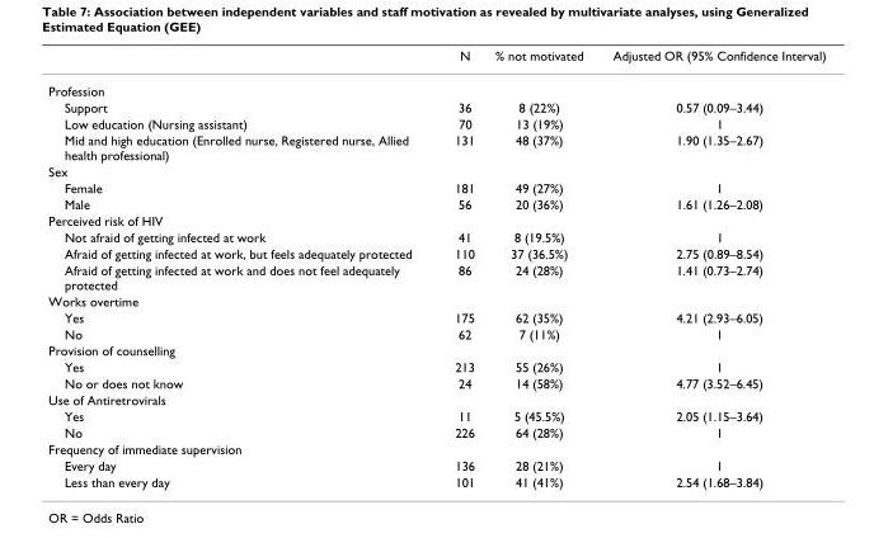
<table><thead><tr><td></td><td>N</td><td>% not motivated</td><td>Adjusted OR (95% Confidence Interval)</td></tr></thead><tbody><tr><td colspan="4">Profession</td></tr><tr><td>Support</td><td>36</td><td>8 (22%)</td><td>0.57 (0.09–3.44)</td></tr><tr><td>Low education (Nursing assistant)</td><td>70</td><td>13 (19%)</td><td>1</td></tr><tr><td>Mid and high education (Enrolled nurse, Registered nurse, Allied health professional)</td><td>131</td><td>48 (37%)</td><td>1.90 (1.35–2.67)</td></tr><tr><td colspan="4">Sex</td></tr><tr><td>Female</td><td>181</td><td>49 (27%)</td><td>1</td></tr><tr><td>Male</td><td>56</td><td>20 (36%)</td><td>1.61 (1.26–2.08)</td></tr><tr><td colspan="4">Perceived risk of HIV</td></tr><tr><td>Not afraid of getting infected at work</td><td>41</td><td>8 (19.5%)</td><td>1</td></tr><tr><td>Afraid of getting infected at work, but feels adequately protected</td><td>110</td><td>37 (36.5%)</td><td>2.75 (0.89–8.54)</td></tr><tr><td>Afraid of getting infected at work and does not feel adequately protected</td><td>86</td><td>24 (28%)</td><td>1.41 (0.73–2.74)</td></tr><tr><td colspan="4">Works overtime</td></tr><tr><td>Yes</td><td>175</td><td>62 (35%)</td><td>4.21 (2.93–6.05)</td></tr><tr><td>No</td><td>62</td><td>7 (11%)</td><td>1</td></tr><tr><td colspan="4">Provision of counselling</td></tr><tr><td>Yes</td><td>213</td><td>55 (26%)</td><td>1</td></tr><tr><td>No or does not know</td><td>24</td><td>14 (58%)</td><td>4.77 (3.52–6.45)</td></tr><tr><td colspan="4">Use of Antiretrovirals</td></tr><tr><td>Yes</td><td>11</td><td>5 (45.5%)</td><td>2.05 (1.15–3.64)</td></tr><tr><td>No</td><td>226</td><td>64 (28%)</td><td>1</td></tr><tr><td colspan="4">Frequency of immediate supervision</td></tr><tr><td>Every day</td><td>136</td><td>28 (21%)</td><td>1</td></tr><tr><td>Less than every day</td><td>101</td><td>41 (41%)</td><td>2.54 (1.68–3.84)</td></tr></tbody></table>